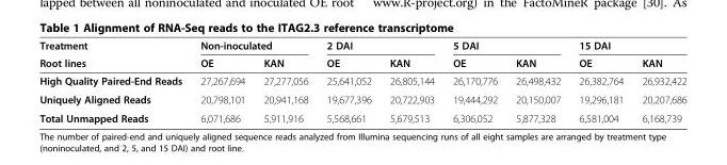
<table><thead><tr><td rowspan="2">Treatment Root lines</td><td colspan="2">Non-inoculated</td><td colspan="2">2 DAI</td><td colspan="2">5 DAI</td><td colspan="2">15 DAI</td></tr><tr><td>OE</td><td>KAN</td><td>OE</td><td>KAN</td><td>OE</td><td>KAN</td><td>OE</td><td>KAN</td></tr></thead><tbody><tr><td>High Quality Paired-End Reads</td><td>27,267,694</td><td>27,277,056</td><td>25,641,052</td><td>26,805,144</td><td>26,170,776</td><td>26,498,432</td><td>26,382,764</td><td>26,932,422</td></tr><tr><td>Uniquely Aligned Reads</td><td>20,798,101</td><td>20,941,168</td><td>19,677,396</td><td>20,722,903</td><td>19,444,292</td><td>20,150,007</td><td>19,296,181</td><td>20,207,686</td></tr><tr><td>Total Unmapped Reads</td><td>6,071,686</td><td>5,911,916</td><td>5,568,661</td><td>5,679,513</td><td>6,306,052</td><td>5,877,328</td><td>6,581,004</td><td>6,168,739</td></tr></tbody></table>